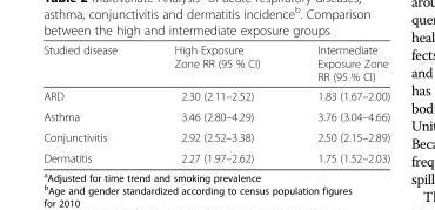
<table><thead><tr><td>Studied disease</td><td>High Exposure Zone RR (95 % CI)</td><td>Intermediate Exposure Zone RR (95 % CI)</td></tr></thead><tbody><tr><td>ARD</td><td>2.30 (2.11–2.52)</td><td>1.83 (1.67–2.00)</td></tr><tr><td>Asthma</td><td>3.46 (2.80–4.29)</td><td>3.76 (3.04–4.66)</td></tr><tr><td>Conjunctivitis</td><td>2.92 (2.52–3.38)</td><td>2.50 (2.15–2.89)</td></tr><tr><td>Dermatitis</td><td>2.27 (1.97–2.62)</td><td>1.75 (1.52–2.03)</td></tr></tbody></table>